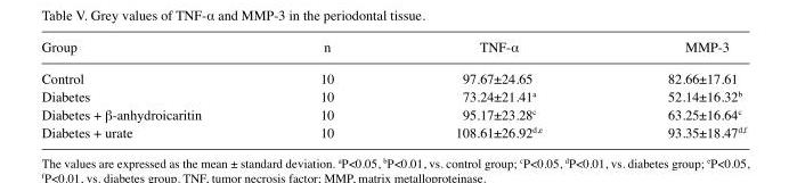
<table><thead><tr><td>Group</td><td>n</td><td>TNF-α</td><td>MMP-3</td></tr></thead><tbody><tr><td>Control</td><td>10</td><td>97.67±24.65</td><td>82.66±17.61</td></tr><tr><td>Diabetes</td><td>10</td><td>73.24±21.41<sup>a</sup></td><td>52.14±16.32<sup>b</sup></td></tr><tr><td>Diabetes + β-anhydroicaritin</td><td>10</td><td>95.17±23.28<sup>c</sup></td><td>63.25±16.64<sup>c</sup></td></tr><tr><td>Diabetes + urate</td><td>10</td><td>108.61±26.92<sup>d</sup>,<sup>e</sup></td><td>93.35±18.47<sup>d</sup>,<sup>f</sup></td></tr></tbody></table>